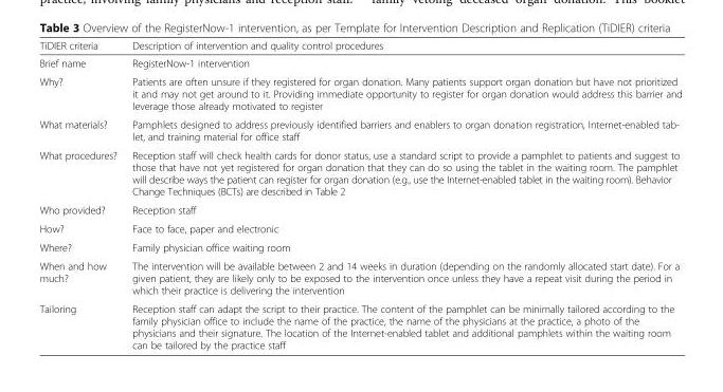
<table><thead><tr><td>TiDIER criteria</td><td>Description of intervention and quality control procedures</td></tr></thead><tbody><tr><td>Brief name</td><td>RegisterNow-1 intervention</td></tr><tr><td>Why?</td><td>Patients are often unsure if they registered for organ donation. Many patients support organ donation but have not prioritized it and may not get around to it. Providing immediate opportunity to register for organ donation would address this barrier and leverage those already motivated to register</td></tr><tr><td>What materials?</td><td>Pamphlets designed to address previously identified barriers and enablers to organ donation registration, Internet-enabled tab- let, and training material for office staff</td></tr><tr><td>What procedures?</td><td>Reception staff will check health cards for donor status, use a standard script to provide a pamphlet to patients and suggest to those that have not yet registered for organ donation that they can do so using the tablet in the waiting room. The pamphlet will describe ways the patient can register for organ donation (e.g., use the Internet-enabled tablet in the waiting room). Behavior Change Techniques (BCTs) are described in Table 2</td></tr><tr><td>Who provided?</td><td>Reception staff</td></tr><tr><td>How?</td><td>Face to face, paper and electronic</td></tr><tr><td>Where?</td><td>Family physician office waiting room</td></tr><tr><td>When and how much?</td><td>The intervention will be available between 2 and 14 weeks in duration (depending on the randomly allocated start date). For a given patient, they are likely only to be exposed to the intervention once unless they have a repeat visit during the period in which their practice is delivering the intervention</td></tr><tr><td>Tailoring</td><td>Reception staff can adapt the script to their practice. The content of the pamphlet can be minimally tailored according to the family physician office to include the name of the practice, the name of the physicians at the practice, a photo of the physicians and their signature. The location of the Internet-enabled tablet and additional pamphlets within the waiting room can be tailored by the practice staff</td></tr></tbody></table>